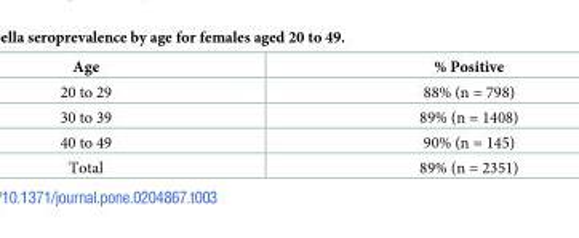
<table><thead><tr><td>Age</td><td>% Positive</td></tr></thead><tbody><tr><td>20 to 29</td><td>88% (n = 798)</td></tr><tr><td>30 to 39</td><td>89% (n = 1408)</td></tr><tr><td>40 to 49</td><td>90% (n = 145)</td></tr><tr><td>Total</td><td>89% (n = 2351)</td></tr></tbody></table>